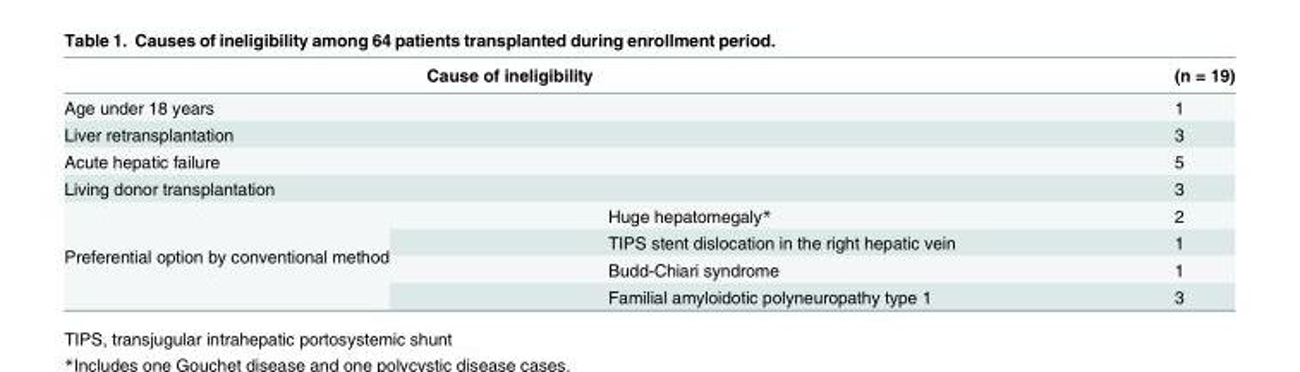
<table><thead><tr><td colspan="2">Cause of ineligibility</td><td rowspan="2">(n = 19) 1</td></tr><tr><td>Age under 18 years</td><td></td></tr></thead><tbody><tr><td>Liver retransplantation</td><td></td><td>3</td></tr><tr><td>Acute hepatic failure</td><td></td><td>5</td></tr><tr><td>Living donor transplantation</td><td></td><td>3</td></tr><tr><td rowspan="4">Preferential option by conventional method</td><td>Huge hepatomegaly*</td><td>2</td></tr><tr><td>TIPS stent dislocation in the right hepatic vein</td><td>1</td></tr><tr><td>Budd-Chiari syndrome</td><td>1</td></tr><tr><td>Familial amyloidotic polyneuropathy type 1</td><td>3</td></tr></tbody></table>